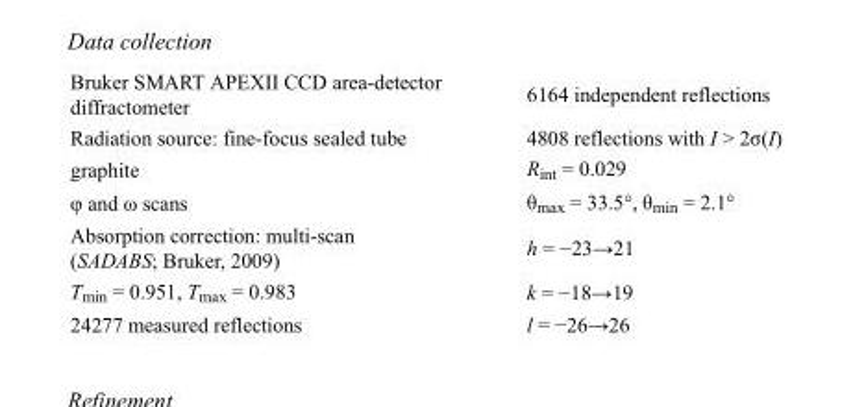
<table><tbody><tr><td>Bruker SMART APEXII CCD area-detector diffractometer</td><td>6164 independent reflections</td></tr><tr><td>Radiation source: fine-focus sealed tube</td><td>4808 reflections with I &gt; 2σ(I)</td></tr><tr><td>graphite</td><td>R<sub>int</sub> = 0.029</td></tr><tr><td>φ and ω scans</td><td>θ<sub>max</sub> = 33.5°, θ<sub>min</sub> = 2.1°</td></tr><tr><td>Absorption correction: multi-scan (SADABS; Bruker, 2009)</td><td>h = −23→21</td></tr><tr><td>T<sub>min</sub> = 0.951, T<sub>max</sub> = 0.983</td><td>k = −18→19</td></tr><tr><td>24277 measured reflections</td><td>l = −26→26</td></tr></tbody></table>